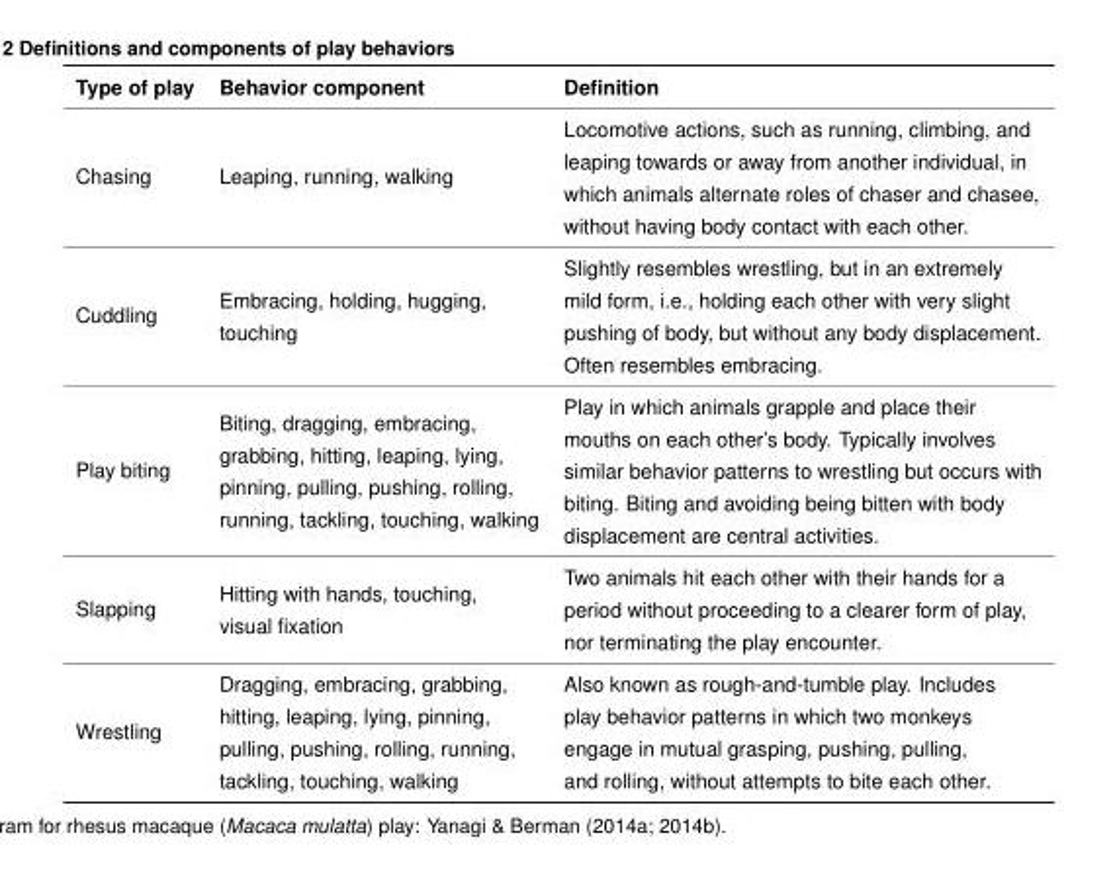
<table><thead><tr><td>Type of play</td><td>Behavior component</td><td>Definition</td></tr></thead><tbody><tr><td>Chasing</td><td>Leaping, running, walking</td><td>Locomotive actions, such as running, climbing, and leaping towards or away from another individual, in which animals alternate roles of chaser and chasee, without having body contact with each other.</td></tr><tr><td>Cuddling</td><td>Embracing, holding, hugging, touching</td><td>Slightly resembles wrestling, but in an extremely mild form, i.e., holding each other with very slight pushing of body, but without any body displacement. Often resembles embracing.</td></tr><tr><td>Play biting</td><td>Biting, dragging, embracing, grabbing, hitting, leaping, lying, pinning, pulling, pushing, rolling, running, tackling, touching, walking</td><td>Play in which animals grapple and place their mouths on each other’s body. Typically involves similar behavior patterns to wrestling but occurs with biting. Biting and avoiding being bitten with body displacement are central activities.</td></tr><tr><td>Slapping</td><td>Hitting with hands, touching, visual fixation</td><td>Two animals hit each other with their hands for a period without proceeding to a clearer form of play, nor terminating the play encounter.</td></tr><tr><td>Wrestling</td><td>Dragging, embracing, grabbing, hitting, leaping, lying, pinning, pulling, pushing, rolling, running, tackling, touching, walking</td><td>Also known as rough-and-tumble play. Includes play behavior patterns in which two monkeys engage in mutual grasping, pushing, pulling, and rolling, without attempts to bite each other.</td></tr></tbody></table>